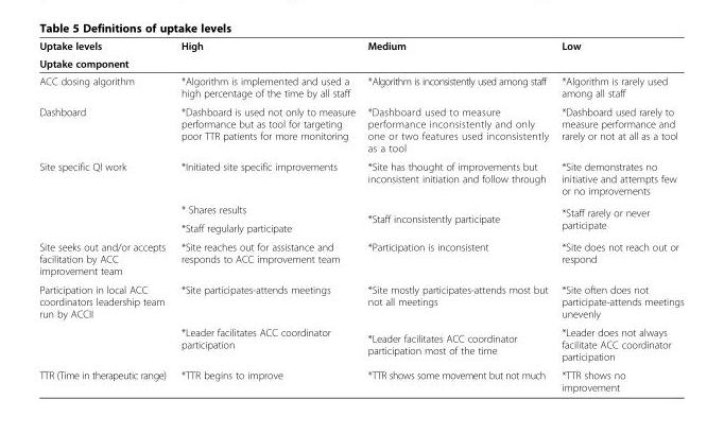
<table><thead><tr><td rowspan="2">Uptake levels Uptake component</td><td rowspan="2">High</td><td rowspan="2">Medium</td><td rowspan="2">Low</td></tr><tr></tr></thead><tbody><tr><td>ACC dosing algorithm</td><td>*Algorithm is implemented and used a high percentage of the time by all staff</td><td>*Algorithm is inconsistently used among staff</td><td>*Algorithm is rarely used among all staff</td></tr><tr><td>Dashboard</td><td>*Dashboard is used not only to measure performance but as tool for targeting poor TTR patients for more monitoring</td><td>*Dashboard used to measure performance inconsistently and only one or two features used inconsistently as a tool</td><td>*Dashboard used rarely to measure performance and rarely or not at all as a tool</td></tr><tr><td rowspan="3">Site specific QI work</td><td>*Initiated site specific improvements</td><td>*Site has thought of improvements but inconsistent initiation and follow through</td><td>*Site demonstrates no initiative and attempts few or no improvements</td></tr><tr><td>* Shares results</td><td rowspan="2">*Staff inconsistently participate</td><td rowspan="2">*Staff rarely or never participate</td></tr><tr><td>*Staff regularly participate</td></tr><tr><td>Site seeks out and/or accepts facilitation by ACC improvement team</td><td>*Site reaches out for assistance and responds to ACC improvement team</td><td>*Participation is inconsistent</td><td>*Site does not reach out or respond</td></tr><tr><td rowspan="2">Participation in local ACC coordinators leadership team run by ACCII</td><td>*Site participates-attends meetings</td><td>*Site mostly participates-attends most but not all meetings</td><td>*Site often does not participate-attends meetings unevenly</td></tr><tr><td>*Leader facilitates ACC coordinator participation</td><td>*Leader facilitates ACC coordinator participation most of the time</td><td>*Leader does not always facilitate ACC coordinator participation</td></tr><tr><td>TTR (Time in therapeutic range)</td><td>*TTR begins to improve</td><td>*TTR shows some movement but not much</td><td>*TTR shows no improvement</td></tr></tbody></table>